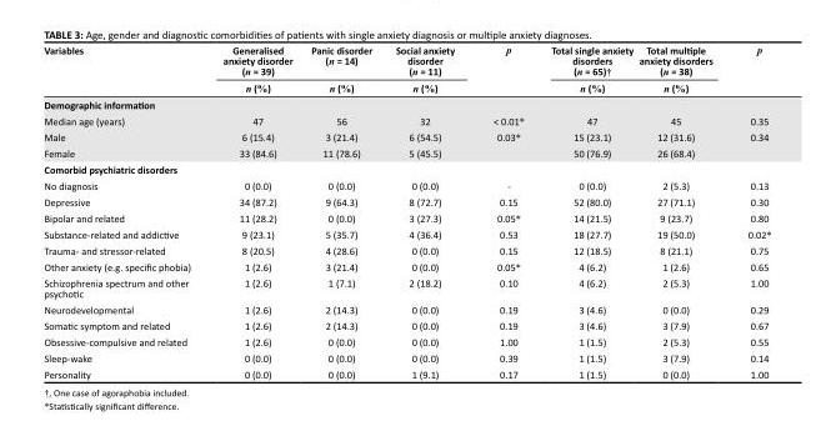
<table><thead><tr><td rowspan="2">Variables</td><td rowspan="2">Generalised anxiety disorder (n = 39) n (%)</td><td rowspan="2">Panic disorder (n = 14) n (%)</td><td rowspan="2">Social anxiety disorder (n = 11) n (%)</td><td rowspan="2">p</td><td rowspan="2">Total single anxiety disorders (n = 65)† n (%)</td><td rowspan="2">Total multiple anxiety disorders (n = 38) n (%)</td><td rowspan="2">p</td></tr><tr></tr></thead><tbody><tr><td colspan="8">Demographic information</td></tr><tr><td>Median age (years)</td><td>47</td><td>56</td><td>32</td><td>&lt; 0.01*</td><td>47</td><td>45</td><td>0.35</td></tr><tr><td>Male</td><td>6 (15.4)</td><td>3 (21.4)</td><td>6 (54.5)</td><td rowspan="2">0.03*</td><td>15 (23.1)</td><td>12 (31.6)</td><td rowspan="2">0.34</td></tr><tr><td>Female</td><td>33 (84.6)</td><td>11 (78.6)</td><td>5 (45.5)</td><td>50 (76.9)</td><td>26 (68.4)</td></tr><tr><td colspan="8">Comorbid psychiatric disorders</td></tr><tr><td>No diagnosis</td><td>0 (0.0)</td><td>0 (0.0)</td><td>0 (0.0)</td><td>-</td><td>0 (0.0)</td><td>2 (5.3)</td><td>0.13</td></tr><tr><td>Depressive</td><td>34 (87.2)</td><td>9 (64.3)</td><td>8 (72.7)</td><td>0.15</td><td>52 (80.0)</td><td>27 (71.1)</td><td>0.30</td></tr><tr><td>Bipolar and related</td><td>11 (28.2)</td><td>0 (0.0)</td><td>3 (27.3)</td><td>0.05*</td><td>14 (21.5)</td><td>9 (23.7)</td><td>0.80</td></tr><tr><td>Substance-related and addictive</td><td>9 (23.1)</td><td>5 (35.7)</td><td>4 (36.4)</td><td>0.53</td><td>18 (27.7)</td><td>19 (50.0)</td><td>0.02*</td></tr><tr><td>Trauma- and stressor-related</td><td>8 (20.5)</td><td>4 (28.6)</td><td>0 (0.0)</td><td>0.15</td><td>12 (18.5)</td><td>8 (21.1)</td><td>0.75</td></tr><tr><td>Other anxiety (e.g. specific phobia)</td><td>1 (2.6)</td><td>3 (21.4)</td><td>0 (0.0)</td><td>0.05*</td><td>4 (6.2)</td><td>1 (2.6)</td><td>0.65</td></tr><tr><td>Schizophrenia spectrum and other psychotic</td><td>1 (2.6)</td><td>1 (7.1)</td><td>2 (18.2)</td><td>0.10</td><td>4 (6.2)</td><td>2 (5.3)</td><td>1.00</td></tr><tr><td>Neurodevelopmental</td><td>1 (2.6)</td><td>2 (14.3)</td><td>0 (0.0)</td><td>0.19</td><td>3 (4.6)</td><td>0 (0.0)</td><td>0.29</td></tr><tr><td>Somatic symptom and related</td><td>1 (2.6)</td><td>2 (14.3)</td><td>0 (0.0)</td><td>0.19</td><td>3 (4.6)</td><td>3 (7.9)</td><td>0.67</td></tr><tr><td>Obsessive-compulsive and related</td><td>1 (2.6)</td><td>0 (0.0)</td><td>0 (0.0)</td><td>1.00</td><td>1 (1.5)</td><td>2 (5.3)</td><td>0.55</td></tr><tr><td>Sleep-wake</td><td>0 (0.0)</td><td>0 (0.0)</td><td>0 (0.0)</td><td>0.39</td><td>1 (1.5)</td><td>3 (7.9)</td><td>0.14</td></tr><tr><td>Personality</td><td>0 (0.0)</td><td>0 (0.0)</td><td>1 (9.1)</td><td>0.17</td><td>1 (1.5)</td><td>0 (0.0)</td><td>1.00</td></tr></tbody></table>